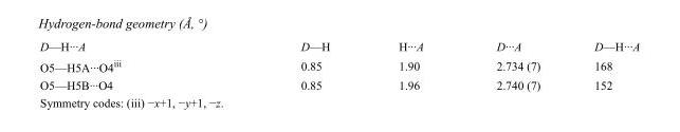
<table><tbody><tr><td>D—H···A</td><td>D—H</td><td>H···A</td><td>D···A</td><td>D—H···A</td></tr><tr><td>O5—H5A···O4<sup>iii</sup></td><td>0.85</td><td>1.90</td><td>2.734 (7)</td><td>168</td></tr><tr><td>O5—H5B···O4</td><td>0.85</td><td>1.96</td><td>2.740 (7)</td><td>152</td></tr></tbody></table>